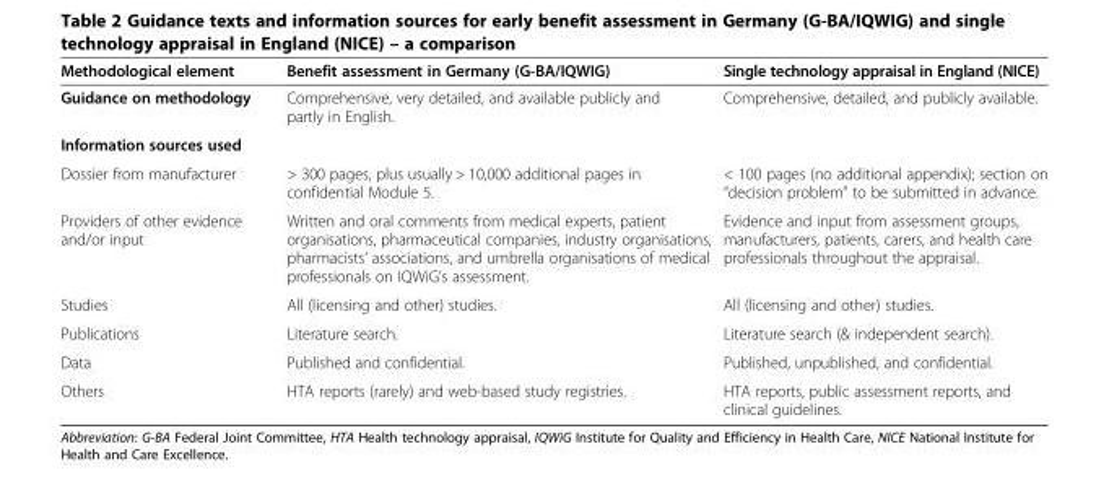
<table><thead><tr><td>Methodological element</td><td>Benefit assessment in Germany (G-BA/IQWIG)</td><td>Single technology appraisal in England (NICE)</td></tr></thead><tbody><tr><td>Guidance on methodology</td><td>Comprehensive, very detailed, and available publicly and partly in English.</td><td>Comprehensive, detailed, and publicly available.</td></tr><tr><td colspan="3">Information sources used</td></tr><tr><td>Dossier from manufacturer</td><td>&gt; 300 pages, plus usually &gt; 10,000 additional pages in confidential Module 5.</td><td>&lt; 100 pages (no additional appendix); section on “decision problem” to be submitted in advance.</td></tr><tr><td>Providers of other evidence and/or input</td><td>Written and oral comments from medical experts, patient organisations, pharmaceutical companies, industry organisations, pharmacists’ associations, and umbrella organisations of medical professionals on IQWiG’s assessment.</td><td>Evidence and input from assessment groups, manufacturers, patients, carers, and health care professionals throughout the appraisal.</td></tr><tr><td>Studies</td><td>All (licensing and other) studies.</td><td>All (licensing and other) studies.</td></tr><tr><td>Publications</td><td>Literature search.</td><td>Literature search (&amp; independent search).</td></tr><tr><td>Data</td><td>Published and confidential.</td><td>Published, unpublished, and confidential.</td></tr><tr><td>Others</td><td>HTA reports (rarely) and web-based study registries.</td><td>HTA reports, public assessment reports, and clinical guidelines.</td></tr></tbody></table>